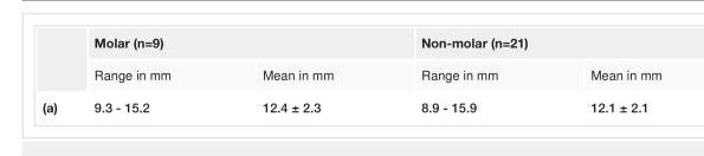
<table><thead><tr><td rowspan="2"></td><td colspan="2">Molar (n=9)</td><td colspan="2">Non-molar (n=21)</td></tr><tr><td>Range in mm</td><td>Mean in mm</td><td>Range in mm</td><td>Mean in mm</td></tr></thead><tbody><tr><td>(a)</td><td>9.3 - 15.2</td><td>12.4 ± 2.3</td><td>8.9 - 15.9</td><td>12.1 ± 2.1</td></tr></tbody></table>